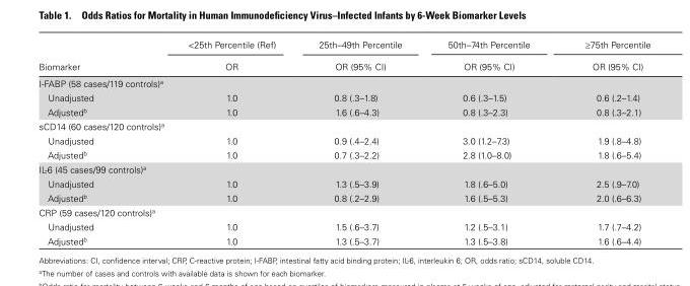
<table><thead><tr><td rowspan="2">Biomarker</td><td rowspan="2">&lt;25th Percentile (Ref) OR</td><td rowspan="2">25th–49th Percentile OR (95% CI)</td><td rowspan="2">50th–74th Percentile OR (95% CI)</td><td rowspan="2">≥75th Percentile OR (95% CI)</td></tr><tr></tr></thead><tbody><tr><td colspan="5">I-FABP (58 cases/119 controls)<sup>a</sup></td></tr><tr><td>Unadjusted</td><td>1.0</td><td>0.8 (.3–1.8)</td><td>0.6 (.3–1.5)</td><td>0.6 (.2–1.4)</td></tr><tr><td>Adjusted<sup>b</sup></td><td>1.0</td><td>1.6 (.6–4.3)</td><td>0.8 (.3–2.3)</td><td>0.8 (.3–2.1)</td></tr><tr><td colspan="5">sCD14 (60 cases/120 controls)<sup>a</sup></td></tr><tr><td>Unadjusted</td><td>1.0</td><td>0.9 (.4–2.4)</td><td>3.0 (1.2–7.3)</td><td>1.9 (.8–4.8)</td></tr><tr><td>Adjusted<sup>b</sup></td><td>1.0</td><td>0.7 (.3–2.2)</td><td>2.8 (1.0–8.0)</td><td>1.8 (.6–5.4)</td></tr><tr><td colspan="5">IL-6 (45 cases/99 controls)<sup>a</sup></td></tr><tr><td>Unadjusted</td><td>1.0</td><td>1.3 (.5–3.9)</td><td>1.8 (.6–5.0)</td><td>2.5 (.9–7.0)</td></tr><tr><td>Adjusted<sup>b</sup></td><td>1.0</td><td>0.8 (.2–2.9)</td><td>1.6 (.5–5.3)</td><td>2.0 (.6–6.3)</td></tr><tr><td colspan="5">CRP (59 cases/120 controls)<sup>a</sup></td></tr><tr><td>Unadjusted</td><td>1.0</td><td>1.5 (.6–3.7)</td><td>1.2 (.5–3.1)</td><td>1.7 (.7–4.2)</td></tr><tr><td>Adjusted<sup>b</sup></td><td>1.0</td><td>1.3 (.5–3.7)</td><td>1.3 (.5–3.8)</td><td>1.6 (.6–4.4)</td></tr></tbody></table>